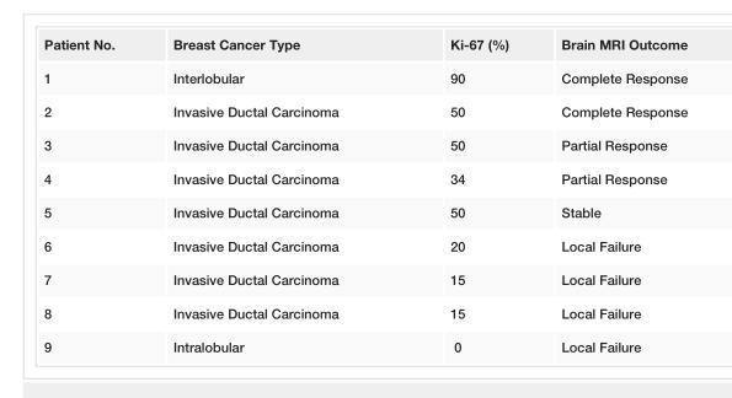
<table><tbody><tr><td>Patient No.</td><td>Breast Cancer Type</td><td>Ki-67 (%)</td><td>Brain MRI Outcome</td></tr><tr><td>1</td><td>Interlobular</td><td>90</td><td>Complete Response</td></tr><tr><td>2</td><td>Invasive Ductal Carcinoma</td><td>50</td><td>Complete Response</td></tr><tr><td>3</td><td>Invasive Ductal Carcinoma</td><td>50</td><td>Partial Response</td></tr><tr><td>4</td><td>Invasive Ductal Carcinoma</td><td>34</td><td>Partial Response</td></tr><tr><td>5</td><td>Invasive Ductal Carcinoma</td><td>50</td><td>Stable</td></tr><tr><td>6</td><td>Invasive Ductal Carcinoma</td><td>20</td><td>Local Failure</td></tr><tr><td>7</td><td>Invasive Ductal Carcinoma</td><td>15</td><td>Local Failure</td></tr><tr><td>8</td><td>Invasive Ductal Carcinoma</td><td>15</td><td>Local Failure</td></tr><tr><td>9</td><td>Intralobular</td><td>0</td><td>Local Failure</td></tr></tbody></table>